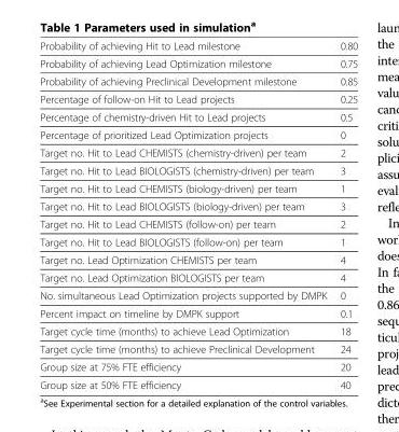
<table><thead><tr><td>Probability of achieving Hit to Lead milestone</td><td>0.80</td></tr></thead><tbody><tr><td>Probability of achieving Lead Optimization milestone</td><td>0.75</td></tr><tr><td>Probability of achieving Preclinical Development milestone</td><td>0.85</td></tr><tr><td>Percentage of follow-on Hit to Lead projects</td><td>0.25</td></tr><tr><td>Percentage of chemistry-driven Hit to Lead projects</td><td>0.5</td></tr><tr><td>Percentage of prioritized Lead Optimization projects</td><td>0</td></tr><tr><td>Target no. Hit to Lead CHEMISTS (chemistry-driven) per team</td><td>2</td></tr><tr><td>Target no. Hit to Lead BIOLOGISTS (chemistry-driven) per team</td><td>3</td></tr><tr><td>Target no. Hit to Lead CHEMISTS (biology-driven) per team</td><td>1</td></tr><tr><td>Target no. Hit to Lead BIOLOGISTS (biology-driven) per team</td><td>3</td></tr><tr><td>Target no. Hit to Lead CHEMISTS (follow-on) per team</td><td>2</td></tr><tr><td>Target no. Hit to Lead BIOLOGISTS (follow-on) per team</td><td>1</td></tr><tr><td>Target no. Lead Optimization CHEMISTS per team</td><td>4</td></tr><tr><td>Target no. Lead Optimization BIOLOGISTS per team</td><td>4</td></tr><tr><td>No. simultaneous Lead Optimization projects supported by DMPK</td><td>0</td></tr><tr><td>Percent impact on timeline by DMPK support</td><td>0.1</td></tr><tr><td>Target cycle time (months) to achieve Lead Optimization</td><td>18</td></tr><tr><td>Target cycle time (months) to achieve Preclinical Development</td><td>24</td></tr><tr><td>Group size at 75% FTE efficiency</td><td>20</td></tr><tr><td>Group size at 50% FTE efficiency</td><td>40</td></tr></tbody></table>